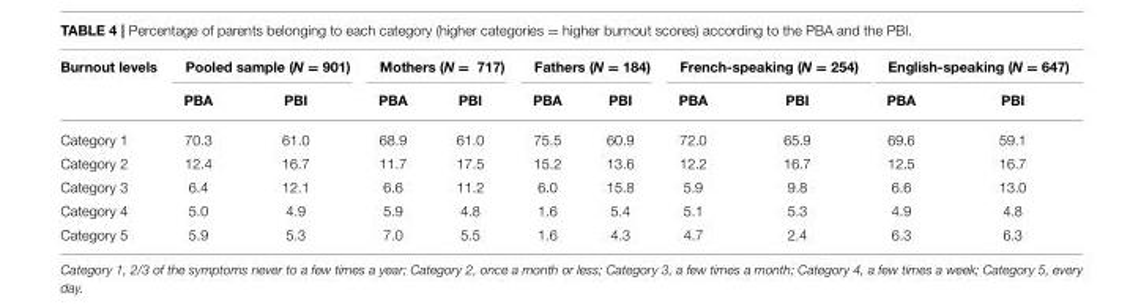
<table><thead><tr><td rowspan="2">Burnout levels</td><td colspan="2">Pooled sample (N = 901)</td><td colspan="2">Mothers (N = 717)</td><td colspan="2">Fathers (N = 184)</td><td colspan="2">French-speaking (N = 254)</td><td colspan="2">English-speaking (N = 647)</td></tr><tr><td>PBA</td><td>PBI</td><td>PBA</td><td>PBI</td><td>PBA</td><td>PBI</td><td>PBA</td><td>PBI</td><td>PBA</td><td>PBI</td></tr></thead><tbody><tr><td>Category 1</td><td>70.3</td><td>61.0</td><td>68.9</td><td>61.0</td><td>75.5</td><td>60.9</td><td>72.0</td><td>65.9</td><td>69.6</td><td>59.1</td></tr><tr><td>Category 2</td><td>12.4</td><td>16.7</td><td>11.7</td><td>17.5</td><td>15.2</td><td>13.6</td><td>12.2</td><td>16.7</td><td>12.5</td><td>16.7</td></tr><tr><td>Category 3</td><td>6.4</td><td>12.1</td><td>6.6</td><td>11.2</td><td>6.0</td><td>15.8</td><td>5.9</td><td>9.8</td><td>6.6</td><td>13.0</td></tr><tr><td>Category 4</td><td>5.0</td><td>4.9</td><td>5.9</td><td>4.8</td><td>1.6</td><td>5.4</td><td>5.1</td><td>5.3</td><td>4.9</td><td>4.8</td></tr><tr><td>Category 5</td><td>5.9</td><td>5.3</td><td>7.0</td><td>5.5</td><td>1.6</td><td>4.3</td><td>4.7</td><td>2.4</td><td>6.3</td><td>6.3</td></tr></tbody></table>